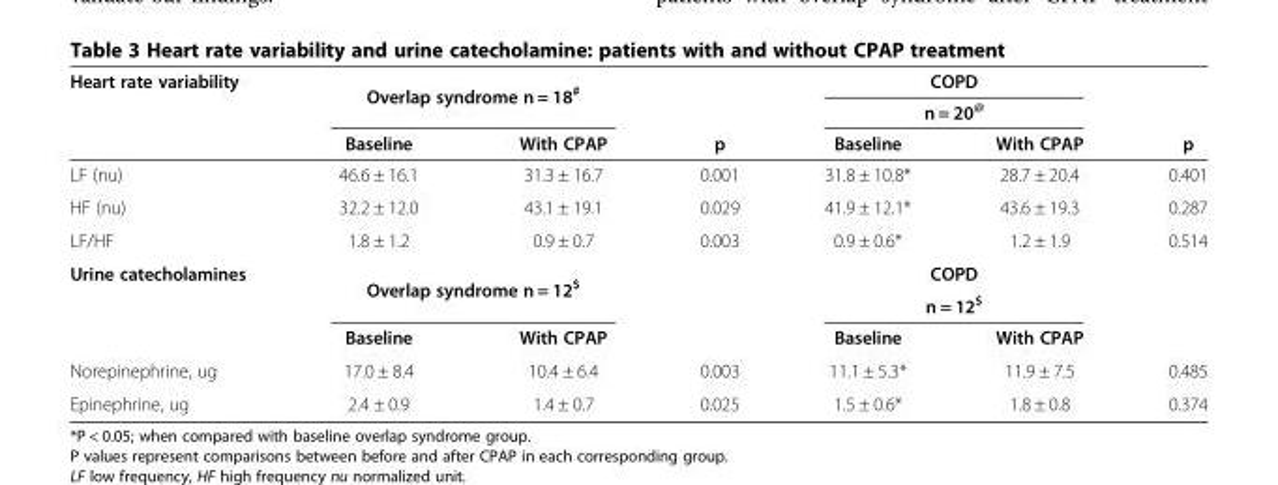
<table><thead><tr><td rowspan="3">Heart rate variability</td><td rowspan="2" colspan="2">Overlap syndrome n = 18<sup>#</sup></td><td rowspan="3">p</td><td rowspan="2" colspan="2">COPD n = 20@</td><td rowspan="3">p</td></tr><tr></tr><tr><td>Baseline</td><td>With CPAP</td><td>Baseline</td><td>With CPAP</td></tr></thead><tbody><tr><td>LF (nu)</td><td>46.6 ± 16.1</td><td>31.3 ± 16.7</td><td>0.001</td><td>31.8 ± 10.8*</td><td>28.7 ± 20.4</td><td>0.401</td></tr><tr><td>HF (nu)</td><td>32.2 ± 12.0</td><td>43.1 ± 19.1</td><td>0.029</td><td>41.9 ± 12.1*</td><td>43.6 ± 19.3</td><td>0.287</td></tr><tr><td>LF/HF</td><td>1.8 ± 1.2</td><td>0.9 ± 0.7</td><td>0.003</td><td>0.9 ± 0.6*</td><td>1.2 ± 1.9</td><td>0.514</td></tr><tr><td rowspan="3">Urine catecholamines</td><td rowspan="2" colspan="2">Overlap syndrome n = 12<sup>$</sup></td><td rowspan="2"></td><td colspan="2">COPD</td><td rowspan="2"></td></tr><tr><td colspan="2">n = 12<sup>$</sup></td></tr><tr><td>Baseline</td><td>With CPAP</td><td></td><td>Baseline</td><td>With CPAP</td><td></td></tr><tr><td>Norepinephrine, ug</td><td>17.0 ± 8.4</td><td>10.4 ± 6.4</td><td>0.003</td><td>11.1 ± 5.3*</td><td>11.9 ± 7.5</td><td>0.485</td></tr><tr><td>Epinephrine, ug</td><td>2.4 ± 0.9</td><td>1.4 ± 0.7</td><td>0.025</td><td>1.5 ± 0.6*</td><td>1.8 ± 0.8</td><td>0.374</td></tr></tbody></table>